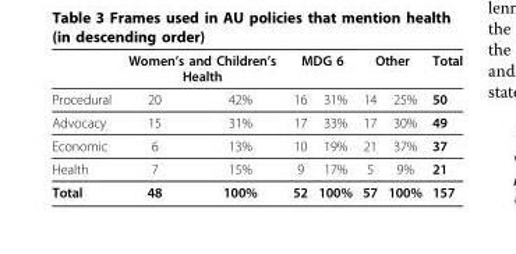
<table><thead><tr><td rowspan="2">Procedural</td><td colspan="2">Women’s and Children’s Health</td><td colspan="2">MDG 6</td><td colspan="2">Other</td><td rowspan="2">Total 50</td></tr><tr><td>20</td><td>42%</td><td>16</td><td>31%</td><td>14</td><td>25%</td></tr></thead><tbody><tr><td>Advocacy</td><td>15</td><td>31%</td><td>17</td><td>33%</td><td>17</td><td>30%</td><td>49</td></tr><tr><td>Economic</td><td>6</td><td>13%</td><td>10</td><td>19%</td><td>21</td><td>37%</td><td>37</td></tr><tr><td>Health</td><td>7</td><td>15%</td><td>9</td><td>17%</td><td>5</td><td>9%</td><td>21</td></tr><tr><td>Total</td><td>48</td><td>100%</td><td>52</td><td>100%</td><td>57</td><td>100%</td><td>157</td></tr></tbody></table>